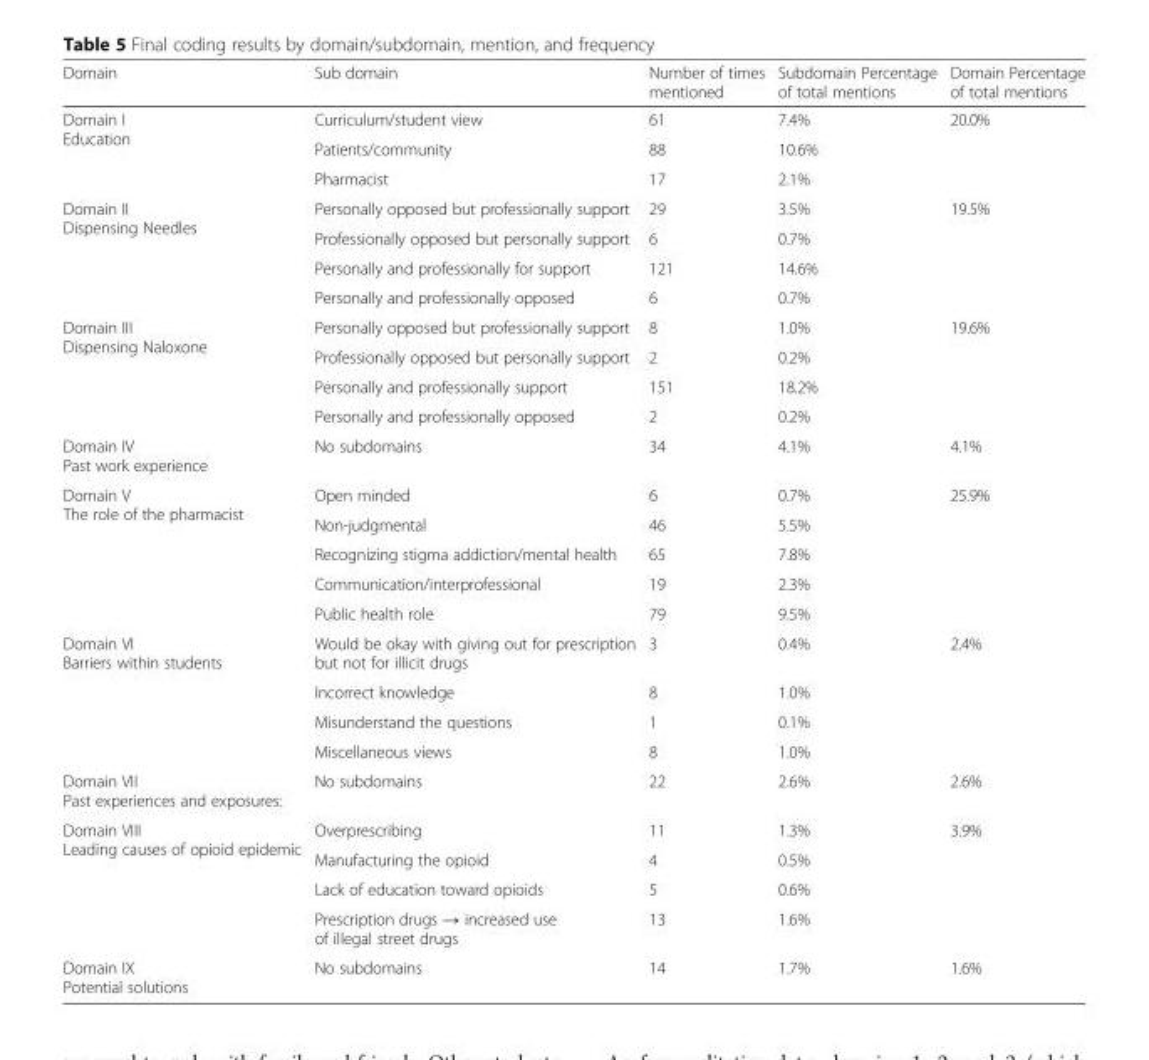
<table><thead><tr><td>Domain</td><td>Sub domain</td><td>Number of times mentioned</td><td>Subdomain Percentage of total mentions</td><td>Domain Percentage of total mentions</td></tr></thead><tbody><tr><td rowspan="3">Domain I Education</td><td>Curriculum/student view</td><td>61</td><td>7.4%</td><td rowspan="3">20.0%</td></tr><tr><td>Patients/community</td><td>88</td><td>10.6%</td></tr><tr><td>Pharmacist</td><td>17</td><td>2.1%</td></tr><tr><td rowspan="4">Domain II Dispensing Needles</td><td>Personally opposed but professionally support</td><td>29</td><td>3.5%</td><td rowspan="4">19.5%</td></tr><tr><td>Professionally opposed but personally support</td><td>6</td><td>0.7%</td></tr><tr><td>Personally and professionally for support</td><td>121</td><td>14.6%</td></tr><tr><td>Personally and professionally opposed</td><td>6</td><td>0.7%</td></tr><tr><td rowspan="4">Domain III Dispensing Naloxone</td><td>Personally opposed but professionally support</td><td>8</td><td>1.0%</td><td rowspan="4">19.6%</td></tr><tr><td>Professionally opposed but personally support</td><td>2</td><td>0.2%</td></tr><tr><td>Personally and professionally support</td><td>151</td><td>18.2%</td></tr><tr><td>Personally and professionally opposed</td><td>2</td><td>0.2%</td></tr><tr><td>Domain IV Past work experience</td><td>No subdomains</td><td>34</td><td>4.1%</td><td>4.1%</td></tr><tr><td rowspan="5">Domain V The role of the pharmacist</td><td>Open minded</td><td>6</td><td>0.7%</td><td rowspan="5">25.9%</td></tr><tr><td>Non-judgmental</td><td>46</td><td>5.5%</td></tr><tr><td>Recognizing stigma addiction/mental health</td><td>65</td><td>7.8%</td></tr><tr><td>Communication/interprofessional</td><td>19</td><td>2.3%</td></tr><tr><td>Public health role</td><td>79</td><td>9.5%</td></tr><tr><td rowspan="4">Domain VI Barriers within students</td><td>Would be okay with giving out for prescription but not for illicit drugs</td><td>3</td><td>0.4%</td><td rowspan="4">2.4%</td></tr><tr><td>Incorrect knowledge</td><td>8</td><td>1.0%</td></tr><tr><td>Misunderstand the questions</td><td>1</td><td>0.1%</td></tr><tr><td>Miscellaneous views</td><td>8</td><td>1.0%</td></tr><tr><td>Domain VII Past experiences and exposures:</td><td>No subdomains</td><td>22</td><td>2.6%</td><td>2.6%</td></tr><tr><td rowspan="4">Domain VIII Leading causes of opioid epidemic</td><td>Overprescribing</td><td>11</td><td>1.3%</td><td rowspan="4">3.9%</td></tr><tr><td>Manufacturing the opioid</td><td>4</td><td>0.5%</td></tr><tr><td>Lack of education toward opioids</td><td>5</td><td>0.6%</td></tr><tr><td>Prescription drugs → increased use of illegal street drugs</td><td>13</td><td>1.6%</td></tr><tr><td>Domain IX Potential solutions</td><td>No subdomains</td><td>14</td><td>1.7%</td><td>1.6%</td></tr></tbody></table>